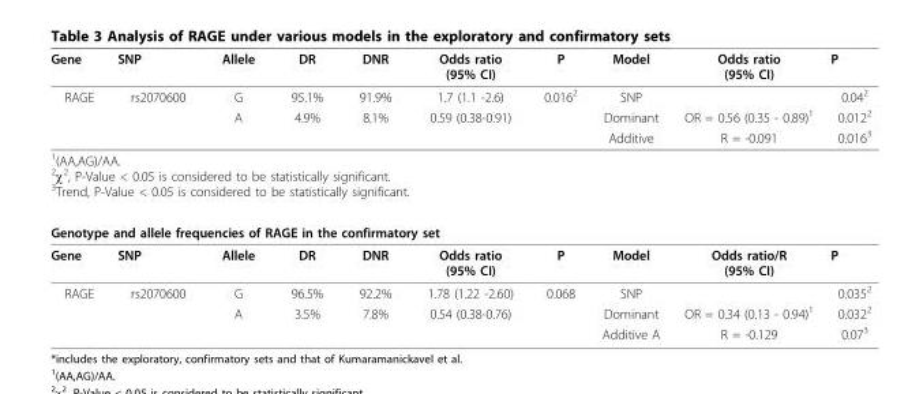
<table><thead><tr><td>Gene</td><td>SNP</td><td>Allele</td><td>DR</td><td>DNR</td><td>Odds ratio (95% CI)</td><td>P</td><td>Model</td><td>Odds ratio (95% CI)</td><td>P</td></tr></thead><tbody><tr><td rowspan="3">RAGE</td><td>rs2070600</td><td>G</td><td>95.1%</td><td>91.9%</td><td>1.7 (1.1 -2.6)</td><td>0.0162</td><td>SNP</td><td></td><td>0.042</td></tr><tr><td></td><td>A</td><td>4.9%</td><td>8.1%</td><td>0.59 (0.38-0.91)</td><td></td><td>Dominant</td><td>OR = 0.56 (0.35 - 0.89)1</td><td>0.0122</td></tr><tr><td></td><td></td><td></td><td></td><td></td><td></td><td>Additive</td><td>R = -0.091</td><td>0.0163</td></tr><tr><td colspan="10">1(AA,AG)/AA. 2c2, P-Value &lt; 0.05 is considered to be statistically significant. 3Trend, P-Value &lt; 0.05 is considered to be statistically significant.</td></tr><tr><td colspan="10">Genotype and allele frequencies of RAGE in the confirmatory set</td></tr><tr><td>Gene</td><td>SNP</td><td>Allele</td><td>DR</td><td>DNR</td><td>Odds ratio (95% CI)</td><td>P</td><td>Model</td><td>Odds ratio/R (95% CI)</td><td>P</td></tr><tr><td rowspan="3">RAGE</td><td>rs2070600</td><td>G</td><td>96.5%</td><td>92.2%</td><td>1.78 (1.22 -2.60)</td><td>0.068</td><td>SNP</td><td></td><td>0.0352</td></tr><tr><td></td><td>A</td><td>3.5%</td><td>7.8%</td><td>0.54 (0.38-0.76)</td><td></td><td>Dominant</td><td>OR = 0.34 (0.13 - 0.94)1</td><td>0.0322</td></tr><tr><td></td><td></td><td></td><td></td><td></td><td></td><td>Additive A</td><td>R = -0.129</td><td>0.073</td></tr></tbody></table>